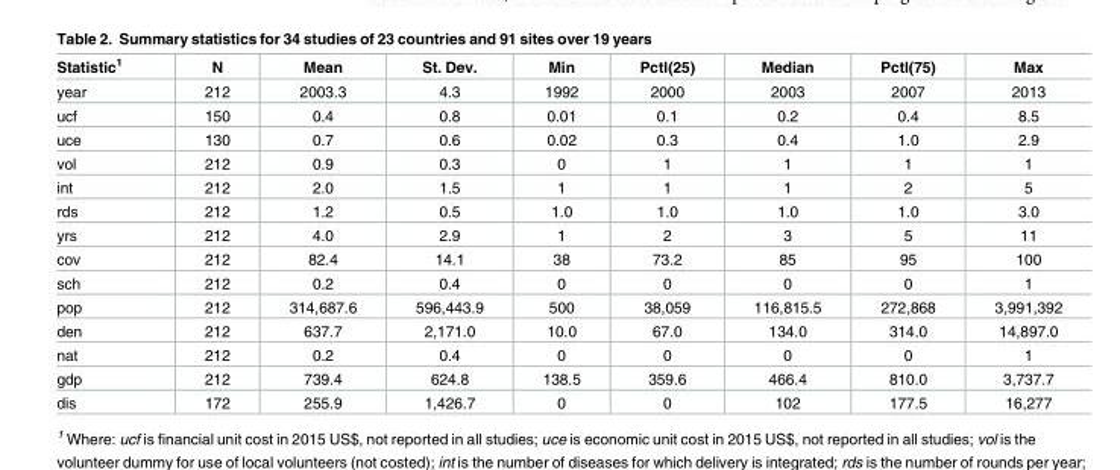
<table><thead><tr><td>Statistic<sup>1</sup></td><td>N</td><td>Mean</td><td>St. Dev.</td><td>Min</td><td>Pctl(25)</td><td>Median</td><td>Pctl(75)</td><td>Max</td></tr></thead><tbody><tr><td>year</td><td>212</td><td>2003.3</td><td>4.3</td><td>1992</td><td>2000</td><td>2003</td><td>2007</td><td>2013</td></tr><tr><td>ucf</td><td>150</td><td>0.4</td><td>0.8</td><td>0.01</td><td>0.1</td><td>0.2</td><td>0.4</td><td>8.5</td></tr><tr><td>uce</td><td>130</td><td>0.7</td><td>0.6</td><td>0.02</td><td>0.3</td><td>0.4</td><td>1.0</td><td>2.9</td></tr><tr><td>vol</td><td>212</td><td>0.9</td><td>0.3</td><td>0</td><td>1</td><td>1</td><td>1</td><td>1</td></tr><tr><td>int</td><td>212</td><td>2.0</td><td>1.5</td><td>1</td><td>1</td><td>1</td><td>2</td><td>5</td></tr><tr><td>rds</td><td>212</td><td>1.2</td><td>0.5</td><td>1.0</td><td>1.0</td><td>1.0</td><td>1.0</td><td>3.0</td></tr><tr><td>yrs</td><td>212</td><td>4.0</td><td>2.9</td><td>1</td><td>2</td><td>3</td><td>5</td><td>11</td></tr><tr><td>cov</td><td>212</td><td>82.4</td><td>14.1</td><td>38</td><td>73.2</td><td>85</td><td>95</td><td>100</td></tr><tr><td>sch</td><td>212</td><td>0.2</td><td>0.4</td><td>0</td><td>0</td><td>0</td><td>0</td><td>1</td></tr><tr><td>pop</td><td>212</td><td>314,687.6</td><td>596,443.9</td><td>500</td><td>38,059</td><td>116,815.5</td><td>272,868</td><td>3,991,392</td></tr><tr><td>den</td><td>212</td><td>637.7</td><td>2,171.0</td><td>10.0</td><td>67.0</td><td>134.0</td><td>314.0</td><td>14,897.0</td></tr><tr><td>nat</td><td>212</td><td>0.2</td><td>0.4</td><td>0</td><td>0</td><td>0</td><td>0</td><td>1</td></tr><tr><td>gdp</td><td>212</td><td>739.4</td><td>624.8</td><td>138.5</td><td>359.6</td><td>466.4</td><td>810.0</td><td>3,737.7</td></tr><tr><td>dis</td><td>172</td><td>255.9</td><td>1,426.7</td><td>0</td><td>0</td><td>102</td><td>177.5</td><td>16,277</td></tr></tbody></table>